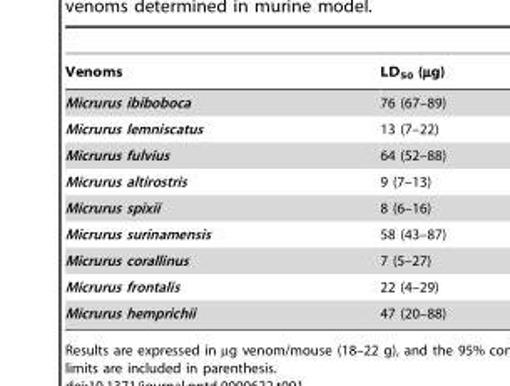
<table><thead><tr><td>Venoms</td><td>LD<sub>50</sub> (µg)</td></tr></thead><tbody><tr><td>Micrurus ibiboboca</td><td>76 (67–89)</td></tr><tr><td>Micrurus lemniscatus</td><td>13 (7–22)</td></tr><tr><td>Micrurus fulvius</td><td>64 (52–88)</td></tr><tr><td>Micrurus altirostris</td><td>9 (7–13)</td></tr><tr><td>Micrurus spixii</td><td>8 (6–16)</td></tr><tr><td>Micrurus surinamensis</td><td>58 (43–87)</td></tr><tr><td>Micrurus corallinus</td><td>7 (5–27)</td></tr><tr><td>Micrurus frontalis</td><td>22 (4–29)</td></tr><tr><td>Micrurus hemprichii</td><td>47 (20–88)</td></tr></tbody></table>